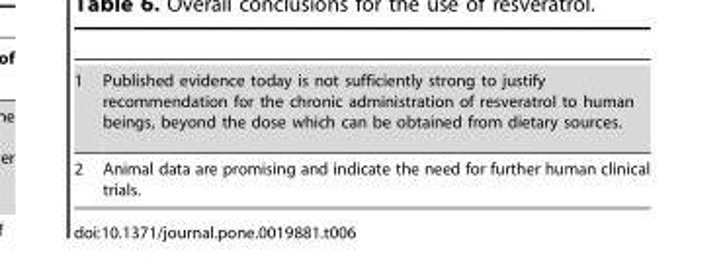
<table><tbody><tr><td>1</td><td>Published evidence today is not sufficiently strong to justify recommendation for the chronic administration of resveratrol to human beings, beyond the dose which can be obtained from dietary sources.</td></tr><tr><td>2</td><td>Animal data are promising and indicate the need for further human clinical trials.</td></tr></tbody></table>